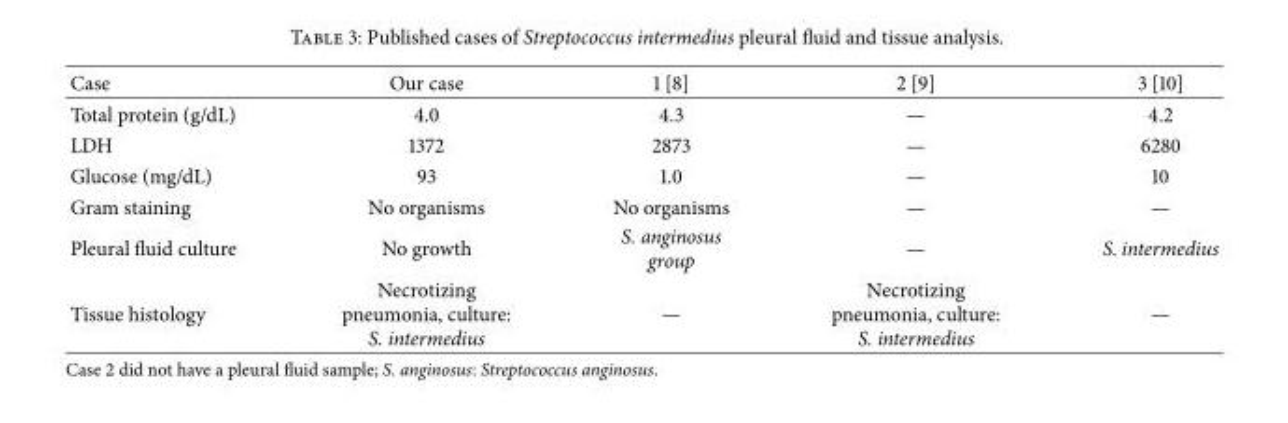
<table><thead><tr><td>Case</td><td>Our case</td><td>1 [8]</td><td>2 [9]</td><td>3 [10]</td></tr></thead><tbody><tr><td>Total protein (g/dL)</td><td>4.0</td><td>4.3</td><td>—</td><td>4.2</td></tr><tr><td>LDH</td><td>1372</td><td>2873</td><td>—</td><td>6280</td></tr><tr><td>Glucose (mg/dL)</td><td>93</td><td>1.0</td><td>—</td><td>10</td></tr><tr><td>Gram staining</td><td>No organisms</td><td>No organisms</td><td>—</td><td>—</td></tr><tr><td>Pleural fluid culture</td><td>No growth</td><td>S. anginosus group</td><td>—</td><td>S. intermedius</td></tr><tr><td>Tissue histology</td><td>Necrotizing pneumonia, culture: S. intermedius</td><td>—</td><td>Necrotizing pneumonia, culture: S. intermedius</td><td>—</td></tr></tbody></table>